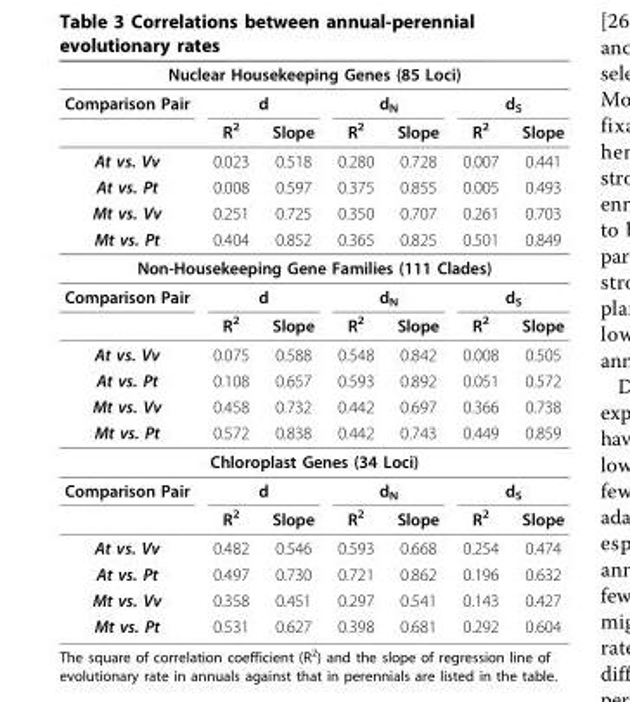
<table><thead><tr><td colspan="7">Nuclear Housekeeping Genes (85 Loci)</td></tr><tr><td rowspan="2">Comparison Pair</td><td colspan="2">d</td><td colspan="2">d<sub>N</sub></td><td colspan="2">d<sub>S</sub></td></tr><tr><td>R<sup>2</sup></td><td>Slope</td><td>R<sup>2</sup></td><td>Slope</td><td>R<sup>2</sup></td><td>Slope</td></tr></thead><tbody><tr><td>At vs. Vv</td><td>0.023</td><td>0.518</td><td>0.280</td><td>0.728</td><td>0.007</td><td>0.441</td></tr><tr><td>At vs. Pt</td><td>0.008</td><td>0.597</td><td>0.375</td><td>0.855</td><td>0.005</td><td>0.493</td></tr><tr><td>Mt vs. Vv</td><td>0.251</td><td>0.725</td><td>0.350</td><td>0.707</td><td>0.261</td><td>0.703</td></tr><tr><td>Mt vs. Pt</td><td>0.404</td><td>0.852</td><td>0.365</td><td>0.825</td><td>0.501</td><td>0.849</td></tr><tr><td colspan="7">Non-Housekeeping Gene Families (111 Clades)</td></tr><tr><td rowspan="2">Comparison Pair</td><td colspan="2">d</td><td colspan="2">d<sub>N</sub></td><td colspan="2">d<sub>S</sub></td></tr><tr><td>R<sup>2</sup></td><td>Slope</td><td>R<sup>2</sup></td><td>Slope</td><td>R<sup>2</sup></td><td>Slope</td></tr><tr><td>At vs. Vv</td><td>0.075</td><td>0.588</td><td>0.548</td><td>0.842</td><td>0.008</td><td>0.505</td></tr><tr><td>At vs. Pt</td><td>0.108</td><td>0.657</td><td>0.593</td><td>0.892</td><td>0.051</td><td>0.572</td></tr><tr><td>Mt vs. Vv</td><td>0.458</td><td>0.732</td><td>0.442</td><td>0.697</td><td>0.366</td><td>0.738</td></tr><tr><td>Mt vs. Pt</td><td>0.572</td><td>0.838</td><td>0.442</td><td>0.743</td><td>0.449</td><td>0.859</td></tr><tr><td colspan="7">Chloroplast Genes (34 Loci)</td></tr><tr><td rowspan="2">Comparison Pair</td><td colspan="2">d</td><td colspan="2">d<sub>N</sub></td><td colspan="2">d<sub>S</sub></td></tr><tr><td>R<sup>2</sup></td><td>Slope</td><td>R<sup>2</sup></td><td>Slope</td><td>R<sup>2</sup></td><td>Slope</td></tr><tr><td>At vs. Vv</td><td>0.482</td><td>0.546</td><td>0.593</td><td>0.668</td><td>0.254</td><td>0.474</td></tr><tr><td>At vs. Pt</td><td>0.497</td><td>0.730</td><td>0.721</td><td>0.862</td><td>0.196</td><td>0.632</td></tr><tr><td>Mt vs. Vv</td><td>0.358</td><td>0.451</td><td>0.297</td><td>0.541</td><td>0.143</td><td>0.427</td></tr><tr><td>Mt vs. Pt</td><td>0.531</td><td>0.627</td><td>0.398</td><td>0.681</td><td>0.292</td><td>0.604</td></tr></tbody></table>